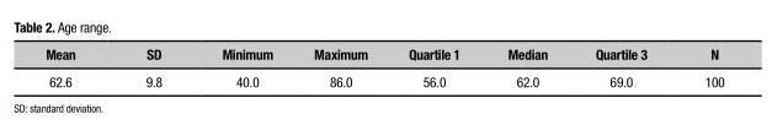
<table><thead><tr><td>Mean</td><td>SD</td><td>Minimum</td><td>Maximum</td><td>Quartile 1</td><td>Median</td><td>Quartile 3</td><td>N</td></tr></thead><tbody><tr><td>62.6</td><td>9.8</td><td>40.0</td><td>86.0</td><td>56.0</td><td>62.0</td><td>69.0</td><td>100</td></tr></tbody></table>